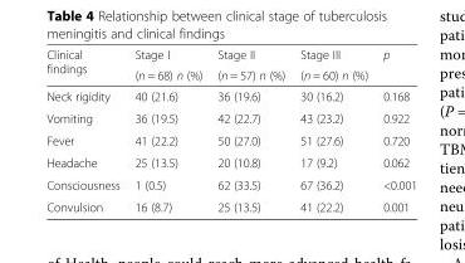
<table><thead><tr><td rowspan="2">Clinical findings</td><td rowspan="2">Stage I (n = 68) n (%)</td><td rowspan="2">Stage II (n = 57) n (%)</td><td rowspan="2">Stage III (n = 60) n (%)</td><td rowspan="2">p</td></tr><tr></tr></thead><tbody><tr><td>Neck rigidity</td><td>40 (21.6)</td><td>36 (19.6)</td><td>30 (16.2)</td><td>0.168</td></tr><tr><td>Vomiting</td><td>36 (19.5)</td><td>42 (22.7)</td><td>43 (23.2)</td><td>0.922</td></tr><tr><td>Fever</td><td>41 (22.2)</td><td>50 (27.0)</td><td>51 (27.6)</td><td>0.720</td></tr><tr><td>Headache</td><td>25 (13.5)</td><td>20 (10.8)</td><td>17 (9.2)</td><td>0.062</td></tr><tr><td>Consciousness</td><td>1 (0.5)</td><td>62 (33.5)</td><td>67 (36.2)</td><td>&lt;0.001</td></tr><tr><td>Convulsion</td><td>16 (8.7)</td><td>25 (13.5)</td><td>41 (22.2)</td><td>0.001</td></tr></tbody></table>